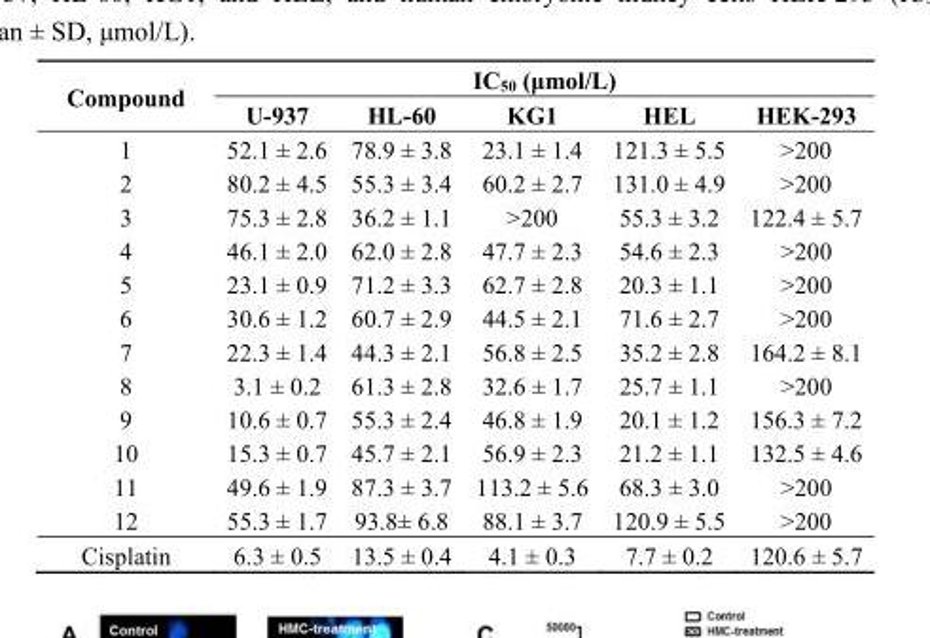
<table><thead><tr><td rowspan="2">Compound</td><td colspan="5">IC<sub>50</sub> (μmol/L)</td></tr><tr><td>U-937</td><td>HL-60</td><td>KG1</td><td>HEL</td><td>HEK-293</td></tr></thead><tbody><tr><td>1</td><td>52.1 ± 2.6</td><td>78.9 ± 3.8</td><td>23.1 ± 1.4</td><td>121.3 ± 5.5</td><td>&gt;200</td></tr><tr><td>2</td><td>80.2 ± 4.5</td><td>55.3 ± 3.4</td><td>60.2 ± 2.7</td><td>131.0 ± 4.9</td><td>&gt;200</td></tr><tr><td>3</td><td>75.3 ± 2.8</td><td>36.2 ± 1.1</td><td>&gt;200</td><td>55.3 ± 3.2</td><td>122.4 ± 5.7</td></tr><tr><td>4</td><td>46.1 ± 2.0</td><td>62.0 ± 2.8</td><td>47.7 ± 2.3</td><td>54.6 ± 2.3</td><td>&gt;200</td></tr><tr><td>5</td><td>23.1 ± 0.9</td><td>71.2 ± 3.3</td><td>62.7 ± 2.8</td><td>20.3 ± 1.1</td><td>&gt;200</td></tr><tr><td>6</td><td>30.6 ± 1.2</td><td>60.7 ± 2.9</td><td>44.5 ± 2.1</td><td>71.6 ± 2.7</td><td>&gt;200</td></tr><tr><td>7</td><td>22.3 ± 1.4</td><td>44.3 ± 2.1</td><td>56.8 ± 2.5</td><td>35.2 ± 2.8</td><td>164.2 ± 8.1</td></tr><tr><td>8</td><td>3.1 ± 0.2</td><td>61.3 ± 2.8</td><td>32.6 ± 1.7</td><td>25.7 ± 1.1</td><td>&gt;200</td></tr><tr><td>9</td><td>10.6 ± 0.7</td><td>55.3 ± 2.4</td><td>46.8 ± 1.9</td><td>20.1 ± 1.2</td><td>156.3 ± 7.2</td></tr><tr><td>10</td><td>15.3 ± 0.7</td><td>45.7 ± 2.1</td><td>56.9 ± 2.3</td><td>21.2 ± 1.1</td><td>132.5 ± 4.6</td></tr><tr><td>11</td><td>49.6 ± 1.9</td><td>87.3 ± 3.7</td><td>113.2 ± 5.6</td><td>68.3 ± 3.0</td><td>&gt;200</td></tr><tr><td>12</td><td>55.3 ± 1.7</td><td>93.8± 6.8</td><td>88.1 ± 3.7</td><td>120.9 ± 5.5</td><td>&gt;200</td></tr><tr><td>Cisplatin</td><td>6.3 ± 0.5</td><td>13.5 ± 0.4</td><td>4.1 ± 0.3</td><td>7.7 ± 0.2</td><td>120.6 ± 5.7</td></tr></tbody></table>